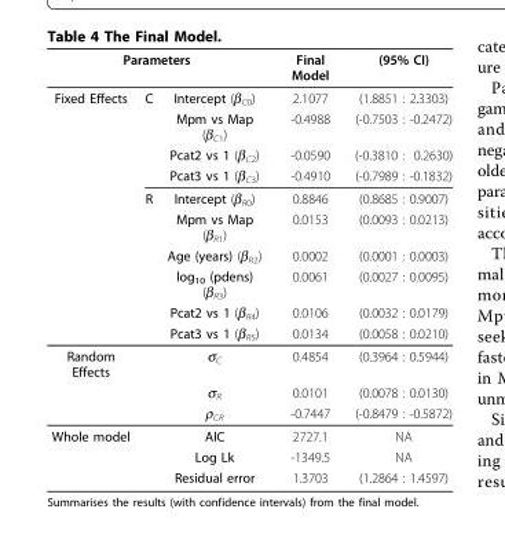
<table><thead><tr><td colspan="3">Parameters</td><td rowspan="2">Final Model 2.1077</td><td rowspan="2">(95% CI) (1.8851 : 2.3303)</td></tr><tr><td>Fixed Effects</td><td>C</td><td>Intercept (β<sub>C0</sub>)</td></tr></thead><tbody><tr><td></td><td></td><td>Mpm vs Map (β<sub>C1</sub>)</td><td>-0.4988</td><td>(-0.7503 : -0.2472)</td></tr><tr><td></td><td></td><td>Pcat2 vs 1 (β<sub>C2</sub>)</td><td>-0.0590</td><td>(-0.3810 : 0.2630)</td></tr><tr><td></td><td></td><td>Pcat3 vs 1 (β<sub>C3</sub>)</td><td>-0.4910</td><td>(-0.7989 : -0.1832)</td></tr><tr><td></td><td>R</td><td>Intercept (β<sub>R0</sub>)</td><td>0.8846</td><td>(0.8685 : 0.9007)</td></tr><tr><td></td><td></td><td>Mpm vs Map (β<sub>R1</sub>)</td><td>0.0153</td><td>(0.0093 : 0.0213)</td></tr><tr><td></td><td></td><td>Age (years) (β<sub>R2</sub>)</td><td>0.0002</td><td>(0.0001 : 0.0003)</td></tr><tr><td></td><td></td><td>log<sub>10</sub> (pdens) (β<sub>R3</sub>)</td><td>0.0061</td><td>(0.0027 : 0.0095)</td></tr><tr><td></td><td></td><td>Pcat2 vs 1 (β<sub>R4</sub>)</td><td>0.0106</td><td>(0.0032 : 0.0179)</td></tr><tr><td></td><td></td><td>Pcat3 vs 1 (β<sub>R5</sub>)</td><td>0.0134</td><td>(0.0058 : 0.0210)</td></tr><tr><td rowspan="3">Random Effects</td><td></td><td>σ<sub>C</sub></td><td>0.4854</td><td>(0.3964 : 0.5944)</td></tr><tr><td></td><td>σ<sub>R</sub></td><td>0.0101</td><td>(0.0078 : 0.0130)</td></tr><tr><td></td><td>ρ<sub>CR</sub></td><td>-0.7447</td><td>(-0.8479 : -0.5872)</td></tr><tr><td rowspan="3">Whole model</td><td></td><td>AIC</td><td>2727.1</td><td>NA</td></tr><tr><td></td><td>Log Lk</td><td>-1349.5</td><td>NA</td></tr><tr><td></td><td>Residual error</td><td>1.3703</td><td>(1.2864 : 1.4597)</td></tr></tbody></table>